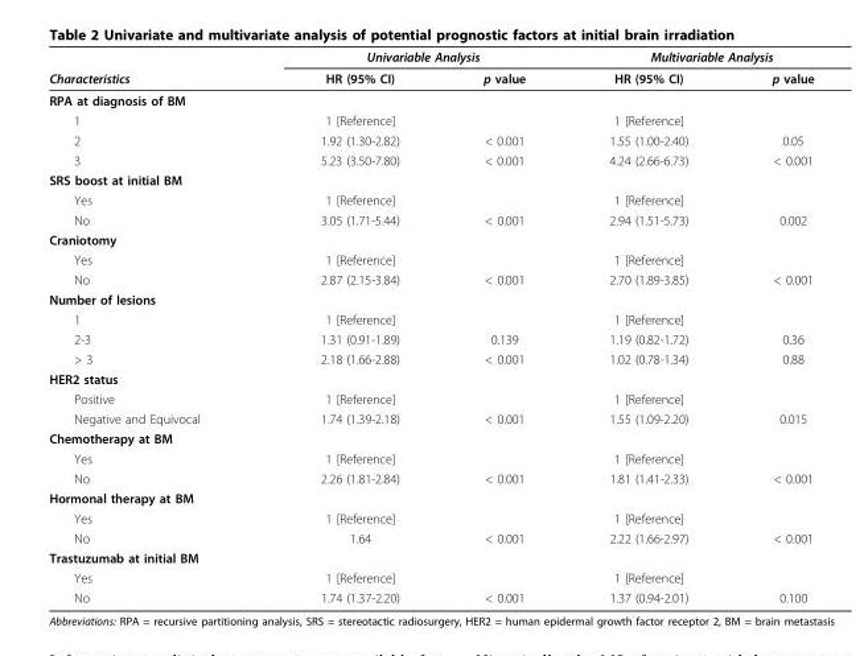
<table><thead><tr><td rowspan="2">Characteristics</td><td colspan="2">Univariable Analysis</td><td colspan="2">Multivariable Analysis</td></tr><tr><td>HR (95% CI)</td><td>p value</td><td>HR (95% CI)</td><td>p value</td></tr></thead><tbody><tr><td colspan="5">RPA at diagnosis of BM</td></tr><tr><td>1</td><td>1 [Reference]</td><td></td><td>1 [Reference]</td><td></td></tr><tr><td>2</td><td>1.92 (1.30-2.82)</td><td>&lt; 0.001</td><td>1.55 (1.00-2.40)</td><td>0.05</td></tr><tr><td>3</td><td>5.23 (3.50-7.80)</td><td>&lt; 0.001</td><td>4.24 (2.66-6.73)</td><td>&lt; 0.001</td></tr><tr><td colspan="5">SRS boost at initial BM</td></tr><tr><td>Yes</td><td>1 [Reference]</td><td></td><td>1 [Reference]</td><td></td></tr><tr><td>No</td><td>3.05 (1.71-5.44)</td><td>&lt; 0.001</td><td>2.94 (1.51-5.73)</td><td>0.002</td></tr><tr><td colspan="5">Craniotomy</td></tr><tr><td>Yes</td><td>1 [Reference]</td><td></td><td>1 [Reference]</td><td></td></tr><tr><td>No</td><td>2.87 (2.15-3.84)</td><td>&lt; 0.001</td><td>2.70 (1.89-3.85)</td><td>&lt; 0.001</td></tr><tr><td colspan="5">Number of lesions</td></tr><tr><td>1</td><td>1 [Reference]</td><td></td><td>1 [Reference]</td><td></td></tr><tr><td>2-3</td><td>1.31 (0.91-1.89)</td><td>0.139</td><td>1.19 (0.82-1.72)</td><td>0.36</td></tr><tr><td>&gt; 3</td><td>2.18 (1.66-2.88)</td><td>&lt; 0.001</td><td>1.02 (0.78-1.34)</td><td>0.88</td></tr><tr><td colspan="5">HER2 status</td></tr><tr><td>Positive</td><td>1 [Reference]</td><td></td><td>1 [Reference]</td><td></td></tr><tr><td>Negative and Equivocal</td><td>1.74 (1.39-2.18)</td><td>&lt; 0.001</td><td>1.55 (1.09-2.20)</td><td>0.015</td></tr><tr><td colspan="5">Chemotherapy at BM</td></tr><tr><td>Yes</td><td>1 [Reference]</td><td></td><td>1 [Reference]</td><td></td></tr><tr><td>No</td><td>2.26 (1.81-2.84)</td><td>&lt; 0.001</td><td>1.81 (1.41-2.33)</td><td>&lt; 0.001</td></tr><tr><td colspan="5">Hormonal therapy at BM</td></tr><tr><td>Yes</td><td>1 [Reference]</td><td></td><td>1 [Reference]</td><td></td></tr><tr><td>No</td><td>1.64</td><td>&lt; 0.001</td><td>2.22 (1.66-2.97)</td><td>&lt; 0.001</td></tr><tr><td colspan="5">Trastuzumab at initial BM</td></tr><tr><td>Yes</td><td>1 [Reference]</td><td></td><td>1 [Reference]</td><td></td></tr><tr><td>No</td><td>1.74 (1.37-2.20)</td><td>&lt; 0.001</td><td>1.37 (0.94-2.01)</td><td>0.100</td></tr></tbody></table>